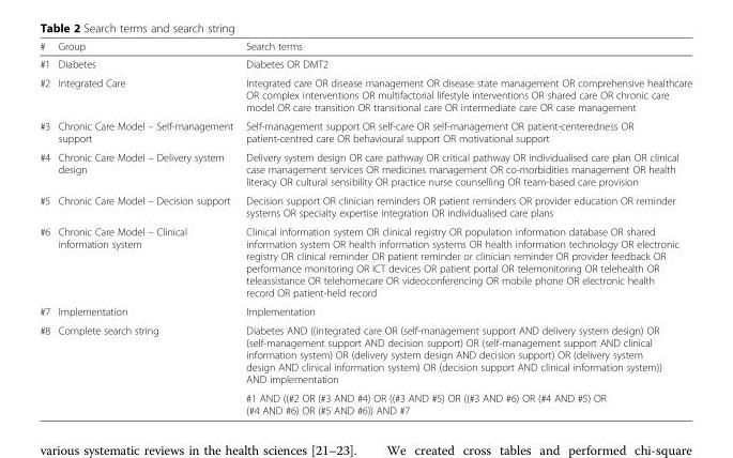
<table><thead><tr><td>#</td><td>Group</td><td>Search terms</td></tr></thead><tbody><tr><td>#1</td><td>Diabetes</td><td>Diabetes OR DMT2</td></tr><tr><td>#2</td><td>Integrated Care</td><td>Integrated care OR disease management OR disease state management OR comprehensive healthcare OR complex interventions OR multifactorial lifestyle interventions OR shared care OR chronic care model OR care transition OR transitional care OR intermediate care OR case management</td></tr><tr><td>#3</td><td>Chronic Care Model – Self-management support</td><td>Self-management support OR self-care OR self-management OR patient-centeredness OR patient-centred care OR behavioural support OR motivational support</td></tr><tr><td>#4</td><td>Chronic Care Model – Delivery system design</td><td>Delivery system design OR care pathway OR critical pathway OR individualised care plan OR clinical case management services OR medicines management OR co-morbidities management OR health literacy OR cultural sensibility OR practice nurse counselling OR team-based care provision</td></tr><tr><td>#5</td><td>Chronic Care Model – Decision support</td><td>Decision support OR clinician reminders OR patient reminders OR provider education OR reminder systems OR specialty expertise integration OR individualised care plans</td></tr><tr><td>#6</td><td>Chronic Care Model – Clinical information system</td><td>Clinical information system OR clinical registry OR population information database OR shared information system OR health information systems OR health information technology OR electronic registry OR clinical reminder OR patient reminder or clinician reminder OR provider feedback OR performance monitoring OR ICT devices OR patient portal OR telemonitoring OR telehealth OR teleassistance OR telehomecare OR videoconferencing OR mobile phone OR electronic health record OR patient-held record</td></tr><tr><td>#7</td><td>Implementation</td><td>Implementation</td></tr><tr><td rowspan="2">#8</td><td rowspan="2">Complete search string</td><td>Diabetes AND ((integrated care OR (self-management support AND delivery system design) OR (self-management support AND decision support) OR (self-management support AND clinical information system) OR (delivery system design AND decision support) OR (delivery system design AND clinical information system) OR (decision support AND clinical information system)) AND implementation</td></tr><tr><td>#1 AND ((#2 OR (#3 AND #4) OR ((#3 AND #5) OR ((#3 AND #6) OR (#4 AND #5) OR (#4 AND #6) OR (#5 AND #6)) AND #7</td></tr></tbody></table>